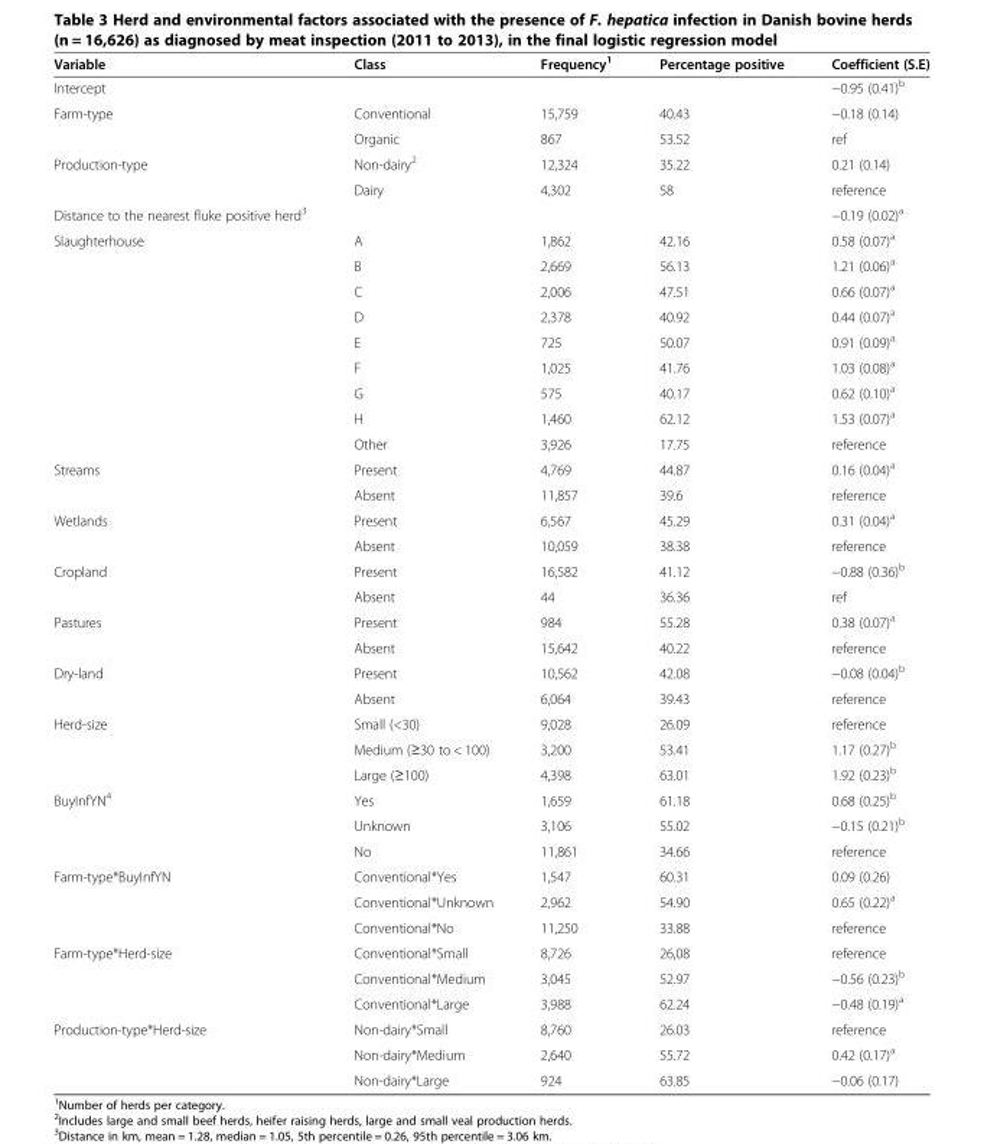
<table><thead><tr><td>Variable</td><td>Class</td><td>Frequency<sup>1</sup></td><td>Percentage positive</td><td>Coefficient (S.E)</td></tr></thead><tbody><tr><td>Intercept</td><td></td><td></td><td></td><td>−0.95 (0.41)<sup>b</sup></td></tr><tr><td rowspan="2">Farm-type</td><td>Conventional</td><td>15,759</td><td>40.43</td><td>−0.18 (0.14)</td></tr><tr><td>Organic</td><td>867</td><td>53.52</td><td>ref</td></tr><tr><td rowspan="2">Production-type</td><td>Non-dairy<sup>2</sup></td><td>12,324</td><td>35.22</td><td>0.21 (0.14)</td></tr><tr><td>Dairy</td><td>4,302</td><td>58</td><td>reference</td></tr><tr><td>Distance to the nearest fluke positive herd<sup>3</sup></td><td></td><td></td><td></td><td>−0.19 (0.02)<sup>a</sup></td></tr><tr><td rowspan="9">Slaughterhouse</td><td>A</td><td>1,862</td><td>42.16</td><td>0.58 (0.07)<sup>a</sup></td></tr><tr><td>B</td><td>2,669</td><td>56.13</td><td>1.21 (0.06)<sup>a</sup></td></tr><tr><td>C</td><td>2,006</td><td>47.51</td><td>0.66 (0.07)<sup>a</sup></td></tr><tr><td>D</td><td>2,378</td><td>40.92</td><td>0.44 (0.07)<sup>a</sup></td></tr><tr><td>E</td><td>725</td><td>50.07</td><td>0.91 (0.09)<sup>a</sup></td></tr><tr><td>F</td><td>1,025</td><td>41.76</td><td>1.03 (0.08)<sup>a</sup></td></tr><tr><td>G</td><td>575</td><td>40.17</td><td>0.62 (0.10)<sup>a</sup></td></tr><tr><td>H</td><td>1,460</td><td>62.12</td><td>1.53 (0.07)<sup>a</sup></td></tr><tr><td>Other</td><td>3,926</td><td>17.75</td><td>reference</td></tr><tr><td rowspan="2">Streams</td><td>Present</td><td>4,769</td><td>44.87</td><td>0.16 (0.04)<sup>a</sup></td></tr><tr><td>Absent</td><td>11,857</td><td>39.6</td><td>reference</td></tr><tr><td rowspan="2">Wetlands</td><td>Present</td><td>6,567</td><td>45.29</td><td>0.31 (0.04)<sup>a</sup></td></tr><tr><td>Absent</td><td>10,059</td><td>38.38</td><td>reference</td></tr><tr><td rowspan="2">Cropland</td><td>Present</td><td>16,582</td><td>41.12</td><td>−0.88 (0.36)<sup>b</sup></td></tr><tr><td>Absent</td><td>44</td><td>36.36</td><td>ref</td></tr><tr><td rowspan="2">Pastures</td><td>Present</td><td>984</td><td>55.28</td><td>0.38 (0.07)<sup>a</sup></td></tr><tr><td>Absent</td><td>15,642</td><td>40.22</td><td>reference</td></tr><tr><td rowspan="2">Dry-land</td><td>Present</td><td>10,562</td><td>42.08</td><td>−0.08 (0.04)<sup>b</sup></td></tr><tr><td>Absent</td><td>6,064</td><td>39.43</td><td>reference</td></tr><tr><td rowspan="3">Herd-size</td><td>Small (&lt;30)</td><td>9,028</td><td>26.09</td><td>reference</td></tr><tr><td>Medium (≥30 to &lt; 100)</td><td>3,200</td><td>53.41</td><td>1.17 (0.27)<sup>b</sup></td></tr><tr><td>Large (≥100)</td><td>4,398</td><td>63.01</td><td>1.92 (0.23)<sup>b</sup></td></tr><tr><td rowspan="3">BuyInfYN<sup>4</sup></td><td>Yes</td><td>1,659</td><td>61.18</td><td>0.68 (0.25)<sup>b</sup></td></tr><tr><td>Unknown</td><td>3,106</td><td>55.02</td><td>−0.15 (0.21)<sup>b</sup></td></tr><tr><td>No</td><td>11,861</td><td>34.66</td><td>reference</td></tr><tr><td rowspan="3">Farm-type*BuyInfYN</td><td>Conventional*Yes</td><td>1,547</td><td>60.31</td><td>0.09 (0.26)</td></tr><tr><td>Conventional*Unknown</td><td>2,962</td><td>54.90</td><td>0.65 (0.22)<sup>a</sup></td></tr><tr><td>Conventional*No</td><td>11,250</td><td>33.88</td><td>reference</td></tr><tr><td rowspan="3">Farm-type*Herd-size</td><td>Conventional*Small</td><td>8,726</td><td>26,08</td><td>reference</td></tr><tr><td>Conventional*Medium</td><td>3,045</td><td>52.97</td><td>−0.56 (0.23)<sup>b</sup></td></tr><tr><td>Conventional*Large</td><td>3,988</td><td>62.24</td><td>−0.48 (0.19)<sup>a</sup></td></tr><tr><td rowspan="3">Production-type*Herd-size</td><td>Non-dairy*Small</td><td>8,760</td><td>26.03</td><td>reference</td></tr><tr><td>Non-dairy*Medium</td><td>2,640</td><td>55.72</td><td>0.42 (0.17)<sup>a</sup></td></tr><tr><td>Non-dairy*Large</td><td>924</td><td>63.85</td><td>−0.06 (0.17)</td></tr></tbody></table>